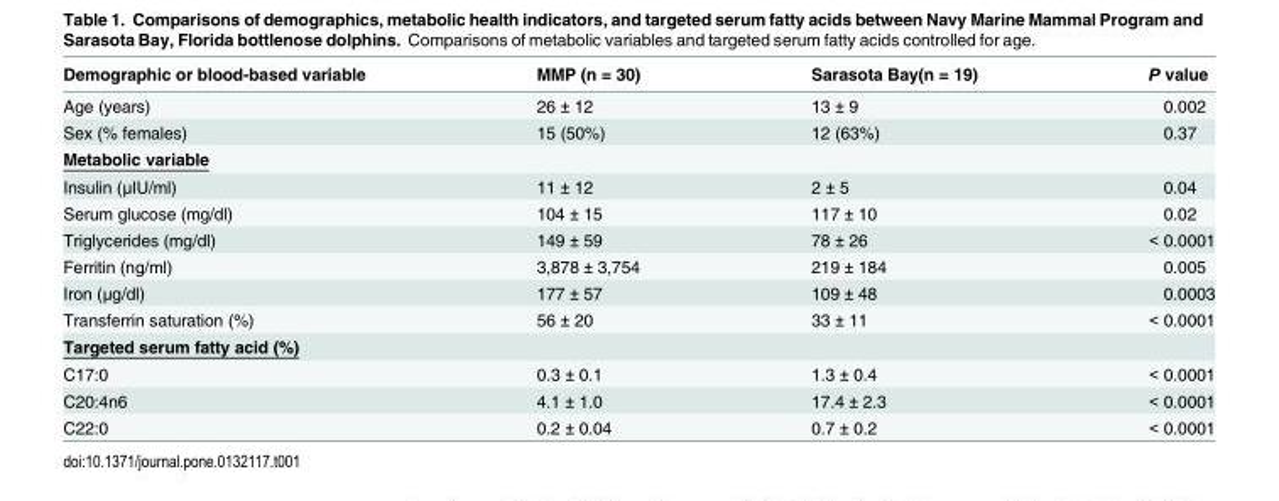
<table><thead><tr><td>Demographic or blood-based variable</td><td>MMP (n = 30)</td><td>Sarasota Bay(n = 19)</td><td>P value</td></tr></thead><tbody><tr><td>Age (years)</td><td>26 ± 12</td><td>13 ± 9</td><td>0.002</td></tr><tr><td>Sex (% females)</td><td>15 (50%)</td><td>12 (63%)</td><td>0.37</td></tr><tr><td colspan="4">Metabolic variable</td></tr><tr><td>Insulin (μIU/ml)</td><td>11 ± 12</td><td>2 ± 5</td><td>0.04</td></tr><tr><td>Serum glucose (mg/dl)</td><td>104 ± 15</td><td>117 ± 10</td><td>0.02</td></tr><tr><td>Triglycerides (mg/dl)</td><td>149 ± 59</td><td>78 ± 26</td><td>&lt; 0.0001</td></tr><tr><td>Ferritin (ng/ml)</td><td>3,878 ± 3,754</td><td>219 ± 184</td><td>0.005</td></tr><tr><td>Iron (μg/dl)</td><td>177 ± 57</td><td>109 ± 48</td><td>0.0003</td></tr><tr><td>Transferrin saturation (%)</td><td>56 ± 20</td><td>33 ± 11</td><td>&lt; 0.0001</td></tr><tr><td colspan="4">Targeted serum fatty acid (%)</td></tr><tr><td>C17:0</td><td>0.3 ± 0.1</td><td>1.3 ± 0.4</td><td>&lt; 0.0001</td></tr><tr><td>C20:4n6</td><td>4.1 ± 1.0</td><td>17.4 ± 2.3</td><td>&lt; 0.0001</td></tr><tr><td>C22:0</td><td>0.2 ± 0.04</td><td>0.7 ± 0.2</td><td>&lt; 0.0001</td></tr></tbody></table>